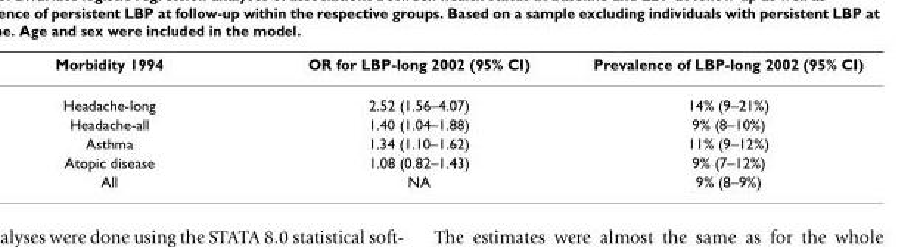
<table><thead><tr><td>Morbidity 1994</td><td>OR for LBP-long 2002 (95% CI)</td><td>Prevalence of LBP-long 2002 (95% CI)</td></tr></thead><tbody><tr><td>Headache-long</td><td>2.52 (1.56–4.07)</td><td>14% (9–21%)</td></tr><tr><td>Headache-all</td><td>1.40 (1.04–1.88)</td><td>9% (8–10%)</td></tr><tr><td>Asthma</td><td>1.34 (1.10–1.62)</td><td>11% (9–12%)</td></tr><tr><td>Atopic disease</td><td>1.08 (0.82–1.43)</td><td>9% (7–12%)</td></tr><tr><td>All</td><td>NA</td><td>9% (8–9%)</td></tr></tbody></table>